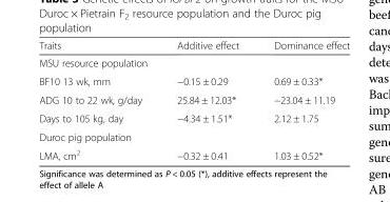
<table><thead><tr><td>Traits</td><td>Additive effect</td><td>Dominance effect</td></tr></thead><tbody><tr><td colspan="3">MSU resource population</td></tr><tr><td>BF10 13 wk, mm</td><td>−0.15 ± 0.29</td><td>0.69 ± 0.33*</td></tr><tr><td>ADG 10 to 22 wk, g/day</td><td>25.84 ± 12.03*</td><td>−23.04 ± 11.19</td></tr><tr><td>Days to 105 kg, day</td><td>−4.34 ± 1.51*</td><td>2.12 ± 1.75</td></tr><tr><td colspan="3">Duroc pig population</td></tr><tr><td>LMA, cm<sup>2</sup></td><td>−0.32 ± 0.41</td><td>1.03 ± 0.52*</td></tr></tbody></table>